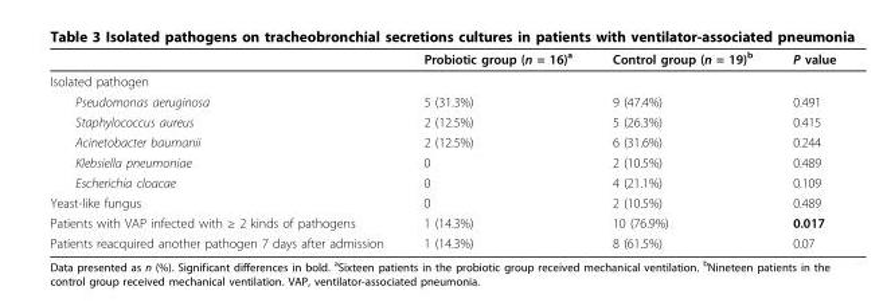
<table><thead><tr><td></td><td>Probiotic group (n = 16)<sup>a</sup></td><td>Control group (n = 19)<sup>b</sup></td><td>P value</td></tr></thead><tbody><tr><td colspan="4">Isolated pathogen</td></tr><tr><td>Pseudomonas aeruginosa</td><td>5 (31.3%)</td><td>9 (47.4%)</td><td>0.491</td></tr><tr><td>Staphylococcus aureus</td><td>2 (12.5%)</td><td>5 (26.3%)</td><td>0.415</td></tr><tr><td>Acinetobacter baumanii</td><td>2 (12.5%)</td><td>6 (31.6%)</td><td>0.244</td></tr><tr><td>Klebsiella pneumoniae</td><td>0</td><td>2 (10.5%)</td><td>0.489</td></tr><tr><td>Escherichia cloacae</td><td>0</td><td>4 (21.1%)</td><td>0.109</td></tr><tr><td>Yeast-like fungus</td><td>0</td><td>2 (10.5%)</td><td>0.489</td></tr><tr><td>Patients with VAP infected with ≥ 2 kinds of pathogens</td><td>1 (14.3%)</td><td>10 (76.9%)</td><td>0.017</td></tr><tr><td>Patients reacquired another pathogen 7 days after admission</td><td>1 (14.3%)</td><td>8 (61.5%)</td><td>0.07</td></tr></tbody></table>